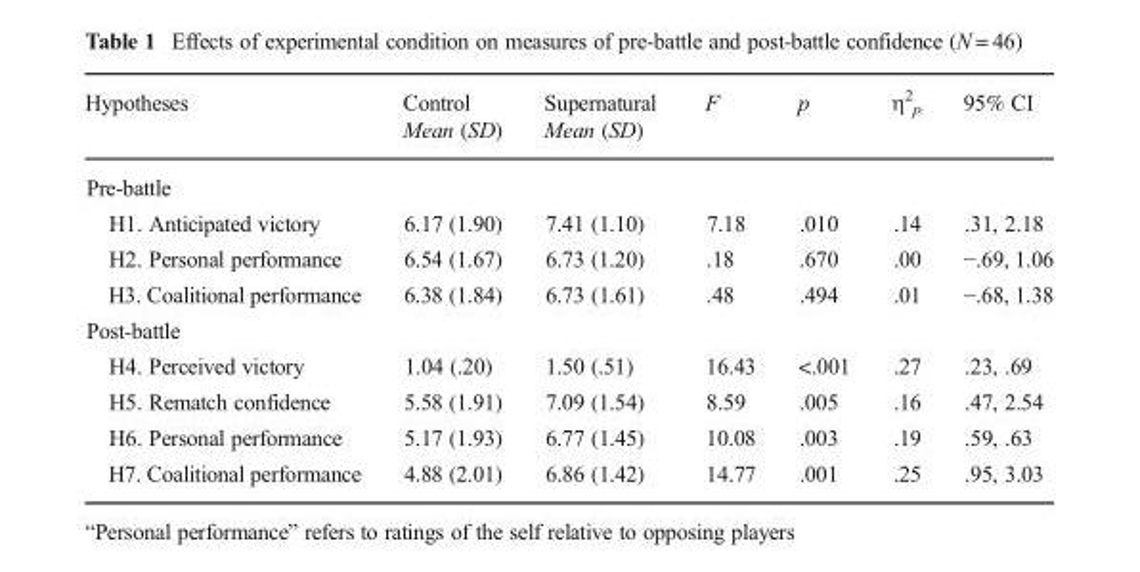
<table><thead><tr><td>Hypotheses</td><td>Control Mean (SD)</td><td>Supernatural Mean (SD)</td><td>F</td><td>p</td><td>η<sup>2</sup> <sub>p</sub></td><td>95% CI</td></tr></thead><tbody><tr><td colspan="7">Pre-battle</td></tr><tr><td>H1. Anticipated victory</td><td>6.17 (1.90)</td><td>7.41 (1.10)</td><td>7.18</td><td>.010</td><td>.14</td><td>.31, 2.18</td></tr><tr><td>H2. Personal performance</td><td>6.54 (1.67)</td><td>6.73 (1.20)</td><td>.18</td><td>.670</td><td>.00</td><td>−.69, 1.06</td></tr><tr><td>H3. Coalitional performance</td><td>6.38 (1.84)</td><td>6.73 (1.61)</td><td>.48</td><td>.494</td><td>.01</td><td>−.68, 1.38</td></tr><tr><td colspan="7">Post-battle</td></tr><tr><td>H4. Perceived victory</td><td>1.04 (.20)</td><td>1.50 (.51)</td><td>16.43</td><td>&lt;.001</td><td>.27</td><td>.23, .69</td></tr><tr><td>H5. Rematch confidence</td><td>5.58 (1.91)</td><td>7.09 (1.54)</td><td>8.59</td><td>.005</td><td>.16</td><td>.47, 2.54</td></tr><tr><td>H6. Personal performance</td><td>5.17 (1.93)</td><td>6.77 (1.45)</td><td>10.08</td><td>.003</td><td>.19</td><td>.59, .63</td></tr><tr><td>H7. Coalitional performance</td><td>4.88 (2.01)</td><td>6.86 (1.42)</td><td>14.77</td><td>.001</td><td>.25</td><td>.95, 3.03</td></tr></tbody></table>